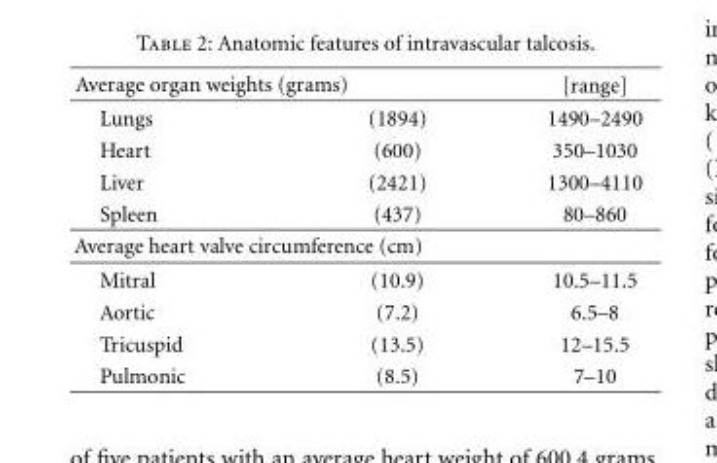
<table><thead><tr><td colspan="2">Average organ weights (grams)</td><td rowspan="2">[range] 1490–2490</td></tr><tr><td>Lungs</td><td>(1894)</td></tr></thead><tbody><tr><td>Heart</td><td>(600)</td><td>350–1030</td></tr><tr><td>Liver</td><td>(2421)</td><td>1300–4110</td></tr><tr><td>Spleen</td><td>(437)</td><td>80–860</td></tr><tr><td colspan="3">Average heart valve circumference (cm)</td></tr><tr><td>Mitral</td><td>(10.9)</td><td>10.5–11.5</td></tr><tr><td>Aortic</td><td>(7.2)</td><td>6.5–8</td></tr><tr><td>Tricuspid</td><td>(13.5)</td><td>12–15.5</td></tr><tr><td>Pulmonic</td><td>(8.5)</td><td>7–10</td></tr></tbody></table>